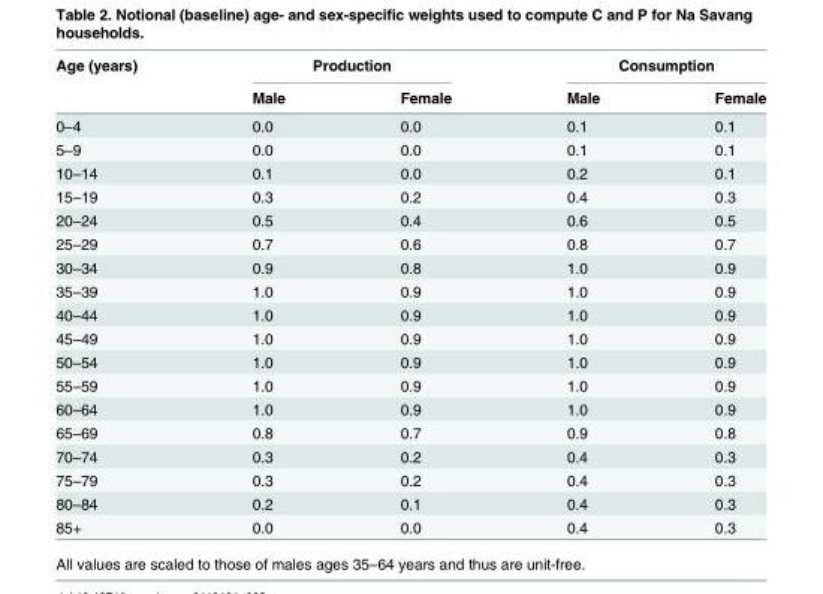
<table><thead><tr><td rowspan="2">Age (years)</td><td colspan="2">Production</td><td colspan="2">Consumption</td></tr><tr><td>Male</td><td>Female</td><td>Male</td><td>Female</td></tr></thead><tbody><tr><td>0–4</td><td>0.0</td><td>0.0</td><td>0.1</td><td>0.1</td></tr><tr><td>5–9</td><td>0.0</td><td>0.0</td><td>0.1</td><td>0.1</td></tr><tr><td>10–14</td><td>0.1</td><td>0.0</td><td>0.2</td><td>0.1</td></tr><tr><td>15–19</td><td>0.3</td><td>0.2</td><td>0.4</td><td>0.3</td></tr><tr><td>20–24</td><td>0.5</td><td>0.4</td><td>0.6</td><td>0.5</td></tr><tr><td>25–29</td><td>0.7</td><td>0.6</td><td>0.8</td><td>0.7</td></tr><tr><td>30–34</td><td>0.9</td><td>0.8</td><td>1.0</td><td>0.9</td></tr><tr><td>35–39</td><td>1.0</td><td>0.9</td><td>1.0</td><td>0.9</td></tr><tr><td>40–44</td><td>1.0</td><td>0.9</td><td>1.0</td><td>0.9</td></tr><tr><td>45–49</td><td>1.0</td><td>0.9</td><td>1.0</td><td>0.9</td></tr><tr><td>50–54</td><td>1.0</td><td>0.9</td><td>1.0</td><td>0.9</td></tr><tr><td>55–59</td><td>1.0</td><td>0.9</td><td>1.0</td><td>0.9</td></tr><tr><td>60–64</td><td>1.0</td><td>0.9</td><td>1.0</td><td>0.9</td></tr><tr><td>65–69</td><td>0.8</td><td>0.7</td><td>0.9</td><td>0.8</td></tr><tr><td>70–74</td><td>0.3</td><td>0.2</td><td>0.4</td><td>0.3</td></tr><tr><td>75–79</td><td>0.3</td><td>0.2</td><td>0.4</td><td>0.3</td></tr><tr><td>80–84</td><td>0.2</td><td>0.1</td><td>0.4</td><td>0.3</td></tr><tr><td>85+</td><td>0.0</td><td>0.0</td><td>0.4</td><td>0.3</td></tr></tbody></table>